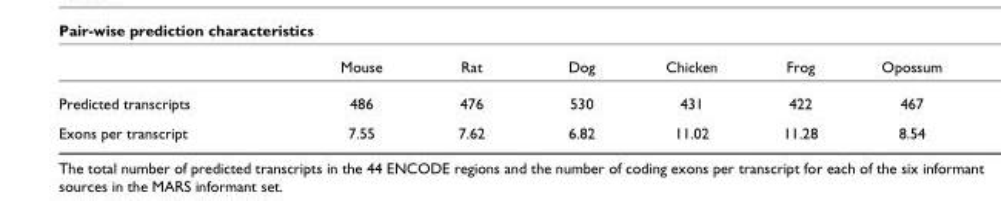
<table><thead><tr><td></td><td>Mouse</td><td>Rat</td><td>Dog</td><td>Chicken</td><td>Frog</td><td>Opossum</td></tr></thead><tbody><tr><td>Predicted transcripts</td><td>486</td><td>476</td><td>530</td><td>431</td><td>422</td><td>467</td></tr><tr><td>Exons per transcript</td><td>7.55</td><td>7.62</td><td>6.82</td><td>11.02</td><td>11.28</td><td>8.54</td></tr></tbody></table>